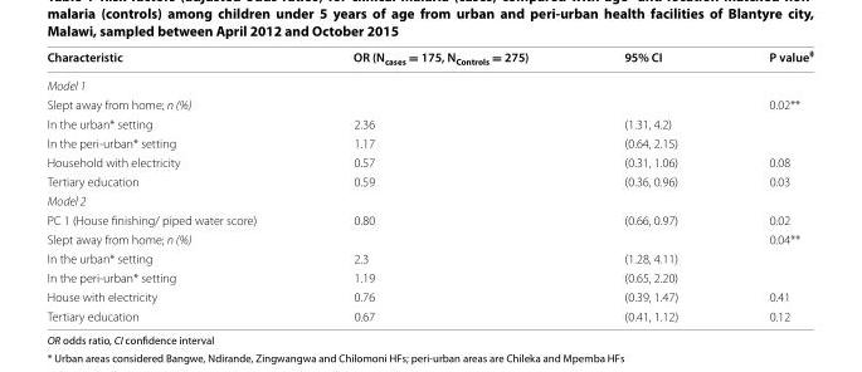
<table><thead><tr><td>Characteristic</td><td>OR (N<sub>cases</sub> = 175, N<sub>Controls</sub> = 275)</td><td>95% CI</td><td>P value<sup>‡</sup></td></tr></thead><tbody><tr><td colspan="4">Model 1</td></tr><tr><td>Slept away from home; n (%)</td><td></td><td></td><td>0.02**</td></tr><tr><td>In the urban* setting</td><td>2.36</td><td>(1.31, 4.2)</td><td></td></tr><tr><td>In the peri-urban* setting</td><td>1.17</td><td>(0.64, 2.15)</td><td></td></tr><tr><td>Household with electricity</td><td>0.57</td><td>(0.31, 1.06)</td><td>0.08</td></tr><tr><td>Tertiary education</td><td>0.59</td><td>(0.36, 0.96)</td><td>0.03</td></tr><tr><td colspan="4">Model 2</td></tr><tr><td>PC 1 (House finishing/ piped water score)</td><td>0.80</td><td>(0.66, 0.97)</td><td>0.02</td></tr><tr><td>Slept away from home; n (%)</td><td></td><td></td><td>0.04**</td></tr><tr><td>In the urban* setting</td><td>2.3</td><td>(1.28, 4.11)</td><td></td></tr><tr><td>In the peri-urban* setting</td><td>1.19</td><td>(0.65, 2.20)</td><td></td></tr><tr><td>House with electricity</td><td>0.76</td><td>(0.39, 1.47)</td><td>0.41</td></tr><tr><td>Tertiary education</td><td>0.67</td><td>(0.41, 1.12)</td><td>0.12</td></tr></tbody></table>